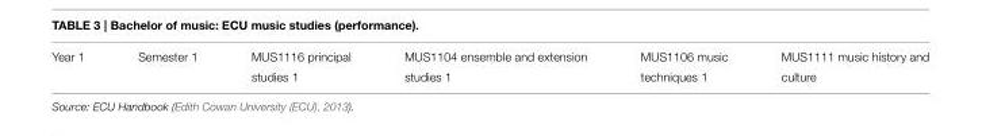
<table><tbody><tr><td>Year 1</td><td>Semester 1</td><td>MUS1116 principal studies 1</td><td>MUS1104 ensemble and extension studies 1</td><td>MUS1106 music techniques 1</td><td>MUS1111 music history and culture</td></tr></tbody></table>